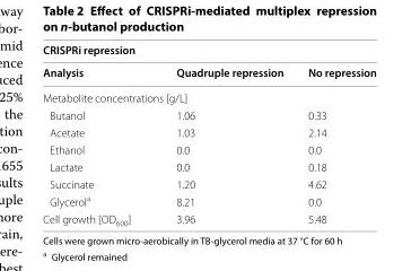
<table><thead><tr><td colspan="3">CRISPRi repression</td></tr><tr><td>Analysis</td><td>Quadruple repression</td><td>No repression</td></tr></thead><tbody><tr><td colspan="3">Metabolite concentrations [g/L]</td></tr><tr><td>Butanol</td><td>1.06</td><td>0.33</td></tr><tr><td>Acetate</td><td>1.03</td><td>2.14</td></tr><tr><td>Ethanol</td><td>0.0</td><td>0.0</td></tr><tr><td>Lactate</td><td>0.0</td><td>0.18</td></tr><tr><td>Succinate</td><td>1.20</td><td>4.62</td></tr><tr><td>Glycerol<sup>a</sup></td><td>8.21</td><td>0.0</td></tr><tr><td>Cell growth [OD<sub>600</sub>]</td><td>3.96</td><td>5.48</td></tr></tbody></table>